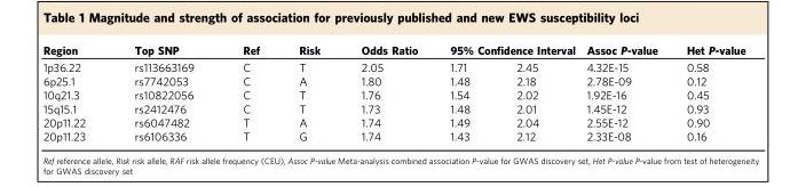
<table><thead><tr><td rowspan="2">Region 1p36.22</td><td rowspan="2">Top SNP rs113663169</td><td rowspan="2">Ref C</td><td rowspan="2">Risk T</td><td rowspan="2">Odds Ratio 2.05</td><td colspan="2">95% Confidence Interval</td><td rowspan="2">Assoc P-value 4.32E-15</td><td rowspan="2">Het P-value 0.58</td></tr><tr><td>1.71</td><td>2.45</td></tr></thead><tbody><tr><td>6p25.1</td><td>rs7742053</td><td>C</td><td>A</td><td>1.80</td><td>1.48</td><td>2.18</td><td>2.78E-09</td><td>0.12</td></tr><tr><td>10q21.3</td><td>rs10822056</td><td>C</td><td>T</td><td>1.76</td><td>1.54</td><td>2.02</td><td>1.92E-16</td><td>0.45</td></tr><tr><td>15q15.1</td><td>rs2412476</td><td>C</td><td>T</td><td>1.73</td><td>1.48</td><td>2.01</td><td>1.45E-12</td><td>0.93</td></tr><tr><td>20p11.22</td><td>rs6047482</td><td>T</td><td>A</td><td>1.74</td><td>1.49</td><td>2.04</td><td>2.55E-12</td><td>0.90</td></tr><tr><td>20p11.23</td><td>rs6106336</td><td>T</td><td>G</td><td>1.74</td><td>1.43</td><td>2.12</td><td>2.33E-08</td><td>0.16</td></tr></tbody></table>